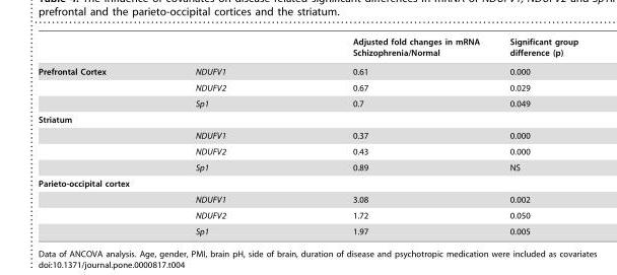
<table><thead><tr><td></td><td></td><td>Adjusted fold changes in mRNA Schizophrenia/Normal</td><td>Significant group difference (p)</td></tr></thead><tbody><tr><td rowspan="3">Prefrontal Cortex</td><td>NDUFV1</td><td>0.61</td><td>0.000</td></tr><tr><td>NDUFV2</td><td>0.67</td><td>0.029</td></tr><tr><td>Sp1</td><td>0.7</td><td>0.049</td></tr><tr><td colspan="4">Striatum</td></tr><tr><td></td><td>NDUFV1</td><td>0.37</td><td>0.000</td></tr><tr><td></td><td>NDUFV2</td><td>0.43</td><td>0.000</td></tr><tr><td></td><td>Sp1</td><td>0.89</td><td>NS</td></tr><tr><td colspan="4">Parieto-occipital cortex</td></tr><tr><td></td><td>NDUFV1</td><td>3.08</td><td>0.002</td></tr><tr><td></td><td>NDUFV2</td><td>1.72</td><td>0.050</td></tr><tr><td></td><td>Sp1</td><td>1.97</td><td>0.005</td></tr></tbody></table>